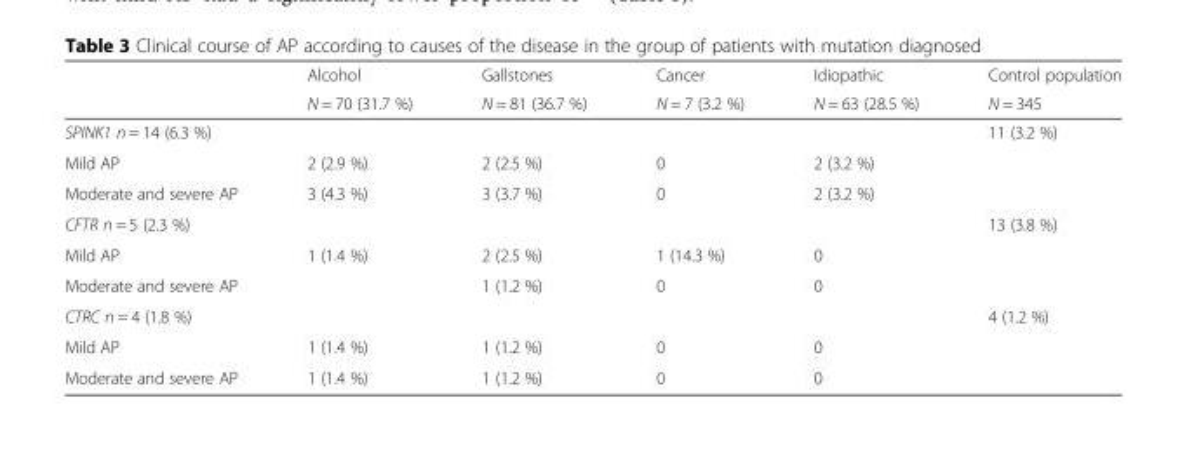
<table><thead><tr><td rowspan="2"></td><td rowspan="2">Alcohol N = 70 (31.7 %)</td><td rowspan="2">Gallstones N = 81 (36.7 %)</td><td rowspan="2">Cancer N = 7 (3.2 %)</td><td rowspan="2">Idiopathic N = 63 (28.5 %)</td><td rowspan="2">Control population N = 345</td></tr><tr></tr></thead><tbody><tr><td>SPINK1 n = 14 (6.3 %)</td><td></td><td></td><td></td><td></td><td>11 (3.2 %)</td></tr><tr><td>Mild AP</td><td>2 (2.9 %)</td><td>2 (2.5 %)</td><td>0</td><td>2 (3.2 %)</td><td></td></tr><tr><td>Moderate and severe AP</td><td>3 (4.3 %)</td><td>3 (3.7 %)</td><td>0</td><td>2 (3.2 %)</td><td></td></tr><tr><td>CFTR n = 5 (2.3 %)</td><td></td><td></td><td></td><td></td><td>13 (3.8 %)</td></tr><tr><td>Mild AP</td><td>1 (1.4 %)</td><td>2 (2.5 %)</td><td>1 (14.3 %)</td><td>0</td><td></td></tr><tr><td>Moderate and severe AP</td><td></td><td>1 (1.2 %)</td><td>0</td><td>0</td><td></td></tr><tr><td>CTRC n = 4 (1.8 %)</td><td></td><td></td><td></td><td></td><td>4 (1.2 %)</td></tr><tr><td>Mild AP</td><td>1 (1.4 %)</td><td>1 (1.2 %)</td><td>0</td><td>0</td><td></td></tr><tr><td>Moderate and severe AP</td><td>1 (1.4 %)</td><td>1 (1.2 %)</td><td>0</td><td>0</td><td></td></tr></tbody></table>